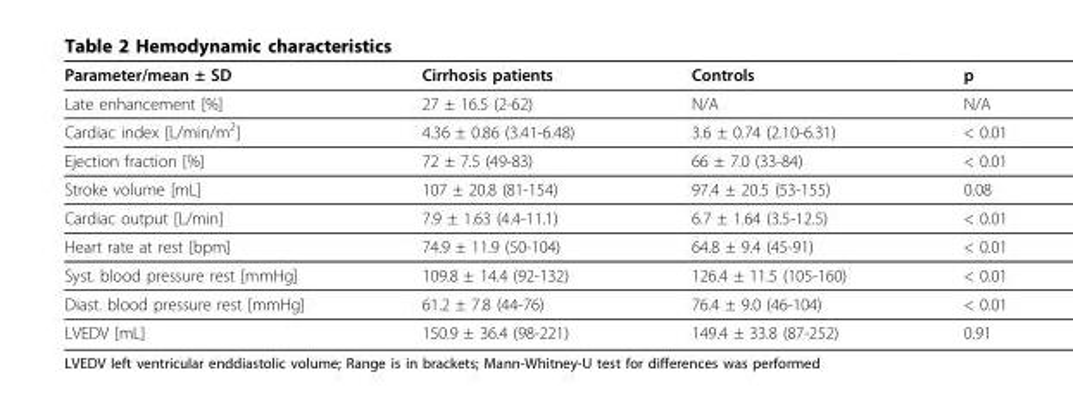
<table><thead><tr><td>Parameter/mean ± SD</td><td>Cirrhosis patients</td><td>Controls</td><td>p</td></tr></thead><tbody><tr><td>Late enhancement [%]</td><td>27 ± 16.5 (2-62)</td><td>N/A</td><td>N/A</td></tr><tr><td>Cardiac index [L/min/m<sup>2</sup>]</td><td>4.36 ± 0.86 (3.41-6.48)</td><td>3.6 ± 0.74 (2.10-6.31)</td><td>&lt; 0.01</td></tr><tr><td>Ejection fraction [%]</td><td>72 ± 7.5 (49-83)</td><td>66 ± 7.0 (33-84)</td><td>&lt; 0.01</td></tr><tr><td>Stroke volume [mL]</td><td>107 ± 20.8 (81-154)</td><td>97.4 ± 20.5 (53-155)</td><td>0.08</td></tr><tr><td>Cardiac output [L/min]</td><td>7.9 ± 1.63 (4.4-11.1)</td><td>6.7 ± 1.64 (3.5-12.5)</td><td>&lt; 0.01</td></tr><tr><td>Heart rate at rest [bpm]</td><td>74.9 ± 11.9 (50-104)</td><td>64.8 ± 9.4 (45-91)</td><td>&lt; 0.01</td></tr><tr><td>Syst. blood pressure rest [mmHg]</td><td>109.8 ± 14.4 (92-132)</td><td>126.4 ± 11.5 (105-160)</td><td>&lt; 0.01</td></tr><tr><td>Diast. blood pressure rest [mmHg]</td><td>61.2 ± 7.8 (44-76)</td><td>76.4 ± 9.0 (46-104)</td><td>&lt; 0.01</td></tr><tr><td>LVEDV [mL]</td><td>150.9 ± 36.4 (98-221)</td><td>149.4 ± 33.8 (87-252)</td><td>0.91</td></tr></tbody></table>